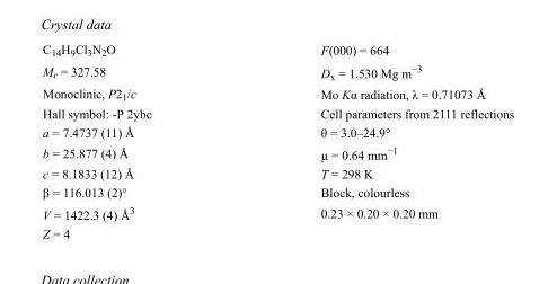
<table><tbody><tr><td>C<sub>14</sub>H<sub>9</sub>Cl<sub>3</sub>N<sub>2</sub>O</td><td>F(000) = 664</td></tr><tr><td>M<sub>r</sub> = 327.58</td><td>D<sub>x</sub> = 1.530 Mg m<sup>−3</sup></td></tr><tr><td>Monoclinic, P2<sub>1</sub>/c</td><td>Mo Kα radiation, λ = 0.71073 Å</td></tr><tr><td>Hall symbol: -P 2ybc</td><td>Cell parameters from 2111 reflections</td></tr><tr><td>a = 7.4737 (11) Å</td><td>θ = 3.0–24.9°</td></tr><tr><td>b = 25.877 (4) Å</td><td>µ = 0.64 mm<sup>−1</sup></td></tr><tr><td>c = 8.1833 (12) Å</td><td>T = 298 K</td></tr><tr><td>β = 116.013 (2)°</td><td>Block, colourless</td></tr><tr><td>V = 1422.3 (4) Å<sup>3</sup></td><td>0.23 × 0.20 × 0.20 mm</td></tr><tr><td>Z = 4</td><td></td></tr></tbody></table>